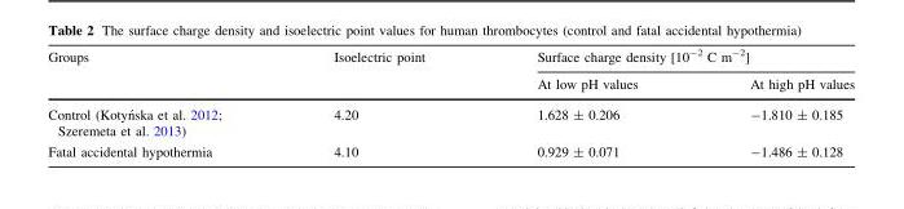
<table><thead><tr><td rowspan="2">Groups</td><td rowspan="2">Isoelectric point</td><td colspan="2">Surface charge density [10<sup>-2</sup> C m<sup>-2</sup>]</td></tr><tr><td>At low pH values</td><td>At high pH values</td></tr></thead><tbody><tr><td>Control (Kotyn´ska et al. 2012; Szeremeta et al. 2013)</td><td>4.20</td><td>1.628 ± 0.206</td><td>-1.810 ± 0.185</td></tr><tr><td>Fatal accidental hypothermia</td><td>4.10</td><td>0.929 ± 0.071</td><td>-1.486 ± 0.128</td></tr></tbody></table>